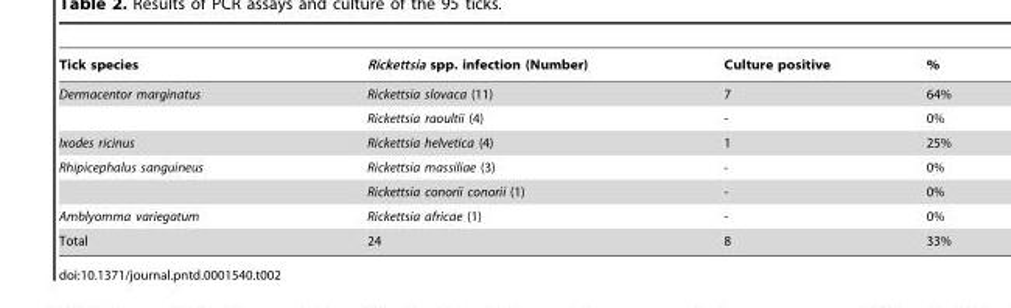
<table><thead><tr><td>Tick species</td><td>Rickettsia spp. infection (Number)</td><td>Culture positive</td><td>%</td></tr></thead><tbody><tr><td rowspan="2">Dermacentor marginatus</td><td>Rickettsia slovaca (11)</td><td>7</td><td>64%</td></tr><tr><td>Rickettsia raoultii (4)</td><td>-</td><td>0%</td></tr><tr><td>Ixodes ricinus</td><td>Rickettsia helvetica (4)</td><td>1</td><td>25%</td></tr><tr><td rowspan="2">Rhipicephalus sanguineus</td><td>Rickettsia massiliae (3)</td><td>-</td><td>0%</td></tr><tr><td>Rickettsia conorii conorii (1)</td><td>-</td><td>0%</td></tr><tr><td>Amblyomma variegatum</td><td>Rickettsia africae (1)</td><td>-</td><td>0%</td></tr><tr><td>Total</td><td>24</td><td>8</td><td>33%</td></tr></tbody></table>